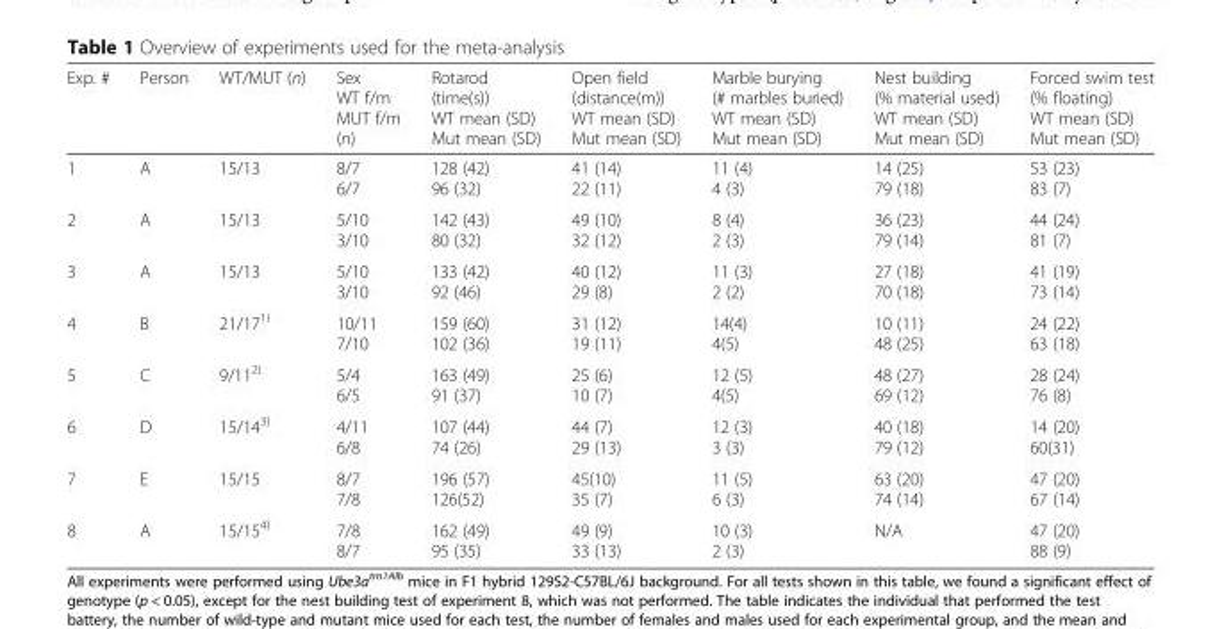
<table><thead><tr><td>Exp. #</td><td>Person</td><td>WT/MUT (n)</td><td>Sex WT f/m MUT f/m (n)</td><td>Rotarod (time(s)) WT mean (SD) Mut mean (SD)</td><td>Open field (distance(m)) WT mean (SD) Mut mean (SD)</td><td>Marble burying (# marbles buried) WT mean (SD) Mut mean (SD)</td><td>Nest building (% material used) WT mean (SD) Mut mean (SD)</td><td>Forced swim test (% floating) WT mean (SD) Mut mean (SD)</td></tr></thead><tbody><tr><td>1</td><td>A</td><td>15/13</td><td>8/7 6/7</td><td>128 (42) 96 (32)</td><td>41 (14) 22 (11)</td><td>11 (4) 4 (3)</td><td>14 (25) 79 (18)</td><td>53 (23) 83 (7)</td></tr><tr><td>2</td><td>A</td><td>15/13</td><td>5/10 3/10</td><td>142 (43) 80 (32)</td><td>49 (10) 32 (12)</td><td>8 (4) 2 (3)</td><td>36 (23) 79 (14)</td><td>44 (24) 81 (7)</td></tr><tr><td>3</td><td>A</td><td>15/13</td><td>5/10 3/10</td><td>133 (42) 92 (46)</td><td>40 (12) 29 (8)</td><td>11 (3) 2 (2)</td><td>27 (18) 70 (18)</td><td>41 (19) 73 (14)</td></tr><tr><td>4</td><td>B</td><td>21/17<sup>1)</sup></td><td>10/11 7/10</td><td>159 (60) 102 (36)</td><td>31 (12) 19 (11)</td><td>14(4) 4(5)</td><td>10 (11) 48 (25)</td><td>24 (22) 63 (18)</td></tr><tr><td>5</td><td>C</td><td>9/11<sup>2)</sup></td><td>5/4 6/5</td><td>163 (49) 91 (37)</td><td>25 (6) 10 (7)</td><td>12 (5) 4(5)</td><td>48 (27) 69 (12)</td><td>28 (24) 76 (8)</td></tr><tr><td>6</td><td>D</td><td>15/14<sup>3)</sup></td><td>4/11 6/8</td><td>107 (44) 74 (26)</td><td>44 (7) 29 (13)</td><td>12 (3) 3 (3)</td><td>40 (18) 79 (12)</td><td>14 (20) 60(31)</td></tr><tr><td>7</td><td>E</td><td>15/15</td><td>8/7 7/8</td><td>196 (57) 126(52)</td><td>45(10) 35 (7)</td><td>11 (5) 6 (3)</td><td>63 (20) 74 (14)</td><td>47 (20) 67 (14)</td></tr><tr><td>8</td><td>A</td><td>15/15<sup>4)</sup></td><td>7/8 8/7</td><td>162 (49) 95 (35)</td><td>49 (9) 33 (13)</td><td>10 (3) 2 (3)</td><td>N/A</td><td>47 (20) 88 (9)</td></tr></tbody></table>